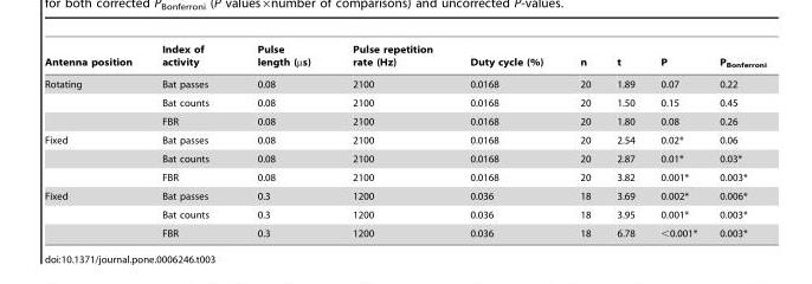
<table><thead><tr><td>Antenna position</td><td>Index of activity</td><td>Pulse length (µs)</td><td>Pulse repetition rate (Hz)</td><td>Duty cycle (%)</td><td>n</td><td>t</td><td>P</td><td>P<sub>Bonferroni</sub></td></tr></thead><tbody><tr><td rowspan="3">Rotating</td><td>Bat passes</td><td>0.08</td><td>2100</td><td>0.0168</td><td>20</td><td>1.89</td><td>0.07</td><td>0.22</td></tr><tr><td>Bat counts</td><td>0.08</td><td>2100</td><td>0.0168</td><td>20</td><td>1.50</td><td>0.15</td><td>0.45</td></tr><tr><td>FBR</td><td>0.08</td><td>2100</td><td>0.0168</td><td>20</td><td>1.80</td><td>0.08</td><td>0.26</td></tr><tr><td rowspan="3">Fixed</td><td>Bat passes</td><td>0.08</td><td>2100</td><td>0.0168</td><td>20</td><td>2.54</td><td>0.02*</td><td>0.06</td></tr><tr><td>Bat counts</td><td>0.08</td><td>2100</td><td>0.0168</td><td>20</td><td>2.87</td><td>0.01*</td><td>0.03*</td></tr><tr><td>FBR</td><td>0.08</td><td>2100</td><td>0.0168</td><td>20</td><td>3.82</td><td>0.001*</td><td>0.003*</td></tr><tr><td rowspan="3">Fixed</td><td>Bat passes</td><td>0.3</td><td>1200</td><td>0.036</td><td>18</td><td>3.69</td><td>0.002*</td><td>0.006*</td></tr><tr><td>Bat counts</td><td>0.3</td><td>1200</td><td>0.036</td><td>18</td><td>3.95</td><td>0.001*</td><td>0.003*</td></tr><tr><td>FBR</td><td>0.3</td><td>1200</td><td>0.036</td><td>18</td><td>6.78</td><td>&lt;0.001*</td><td>0.003*</td></tr></tbody></table>